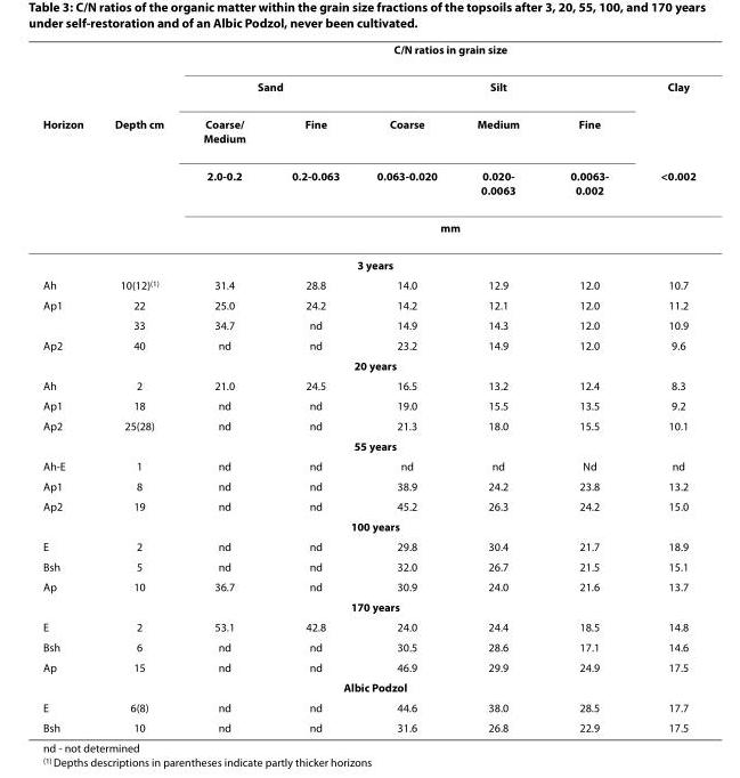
<table><thead><tr><td rowspan="5">Horizon</td><td rowspan="5">Depth cm</td><td colspan="6">C/N ratios in grain size</td></tr><tr><td colspan="2">Sand</td><td colspan="3">Silt</td><td rowspan="3">Clay &lt;0.002</td></tr><tr><td rowspan="2">Coarse/ Medium 2.0-0.2</td><td rowspan="2">Fine 0.2-0.063</td><td rowspan="2">Coarse 0.063-0.020</td><td rowspan="2">Medium 0.020- 0.0063</td><td rowspan="2">Fine 0.0063- 0.002</td></tr><tr></tr><tr><td colspan="6">mm</td></tr></thead><tbody><tr><td colspan="8">3 years</td></tr><tr><td>Ah</td><td>10(12)<sup>(1)</sup></td><td>31.4</td><td>28.8</td><td>14.0</td><td>12.9</td><td>12.0</td><td>10.7</td></tr><tr><td rowspan="2">Ap1</td><td>22</td><td>25.0</td><td>24.2</td><td>14.2</td><td>12.1</td><td>12.0</td><td>11.2</td></tr><tr><td>33</td><td>34.7</td><td>nd</td><td>14.9</td><td>14.3</td><td>12.0</td><td>10.9</td></tr><tr><td>Ap2</td><td>40</td><td>nd</td><td>nd</td><td>23.2</td><td>14.9</td><td>12.0</td><td>9.6</td></tr><tr><td colspan="8">20 years</td></tr><tr><td>Ah</td><td>2</td><td>21.0</td><td>24.5</td><td>16.5</td><td>13.2</td><td>12.4</td><td>8.3</td></tr><tr><td>Ap1</td><td>18</td><td>nd</td><td>nd</td><td>19.0</td><td>15.5</td><td>13.5</td><td>9.2</td></tr><tr><td>Ap2</td><td>25(28)</td><td>nd</td><td>nd</td><td>21.3</td><td>18.0</td><td>15.5</td><td>10.1</td></tr><tr><td colspan="8">55 years</td></tr><tr><td>Ah-E</td><td>1</td><td>nd</td><td>nd</td><td>nd</td><td>nd</td><td>Nd</td><td>nd</td></tr><tr><td>Ap1</td><td>8</td><td>nd</td><td>nd</td><td>38.9</td><td>24.2</td><td>23.8</td><td>13.2</td></tr><tr><td>Ap2</td><td>19</td><td>nd</td><td>nd</td><td>45.2</td><td>26.3</td><td>24.2</td><td>15.0</td></tr><tr><td colspan="8">100 years</td></tr><tr><td>E</td><td>2</td><td>nd</td><td>nd</td><td>29.8</td><td>30.4</td><td>21.7</td><td>18.9</td></tr><tr><td>Bsh</td><td>5</td><td>nd</td><td>nd</td><td>32.0</td><td>26.7</td><td>21.5</td><td>15.1</td></tr><tr><td>Ap</td><td>10</td><td>36.7</td><td>nd</td><td>30.9</td><td>24.0</td><td>21.6</td><td>13.7</td></tr><tr><td colspan="8">170 years</td></tr><tr><td>E</td><td>2</td><td>53.1</td><td>42.8</td><td>24.0</td><td>24.4</td><td>18.5</td><td>14.8</td></tr><tr><td>Bsh</td><td>6</td><td>nd</td><td>nd</td><td>30.5</td><td>28.6</td><td>17.1</td><td>14.6</td></tr><tr><td>Ap</td><td>15</td><td>nd</td><td>nd</td><td>46.9</td><td>29.9</td><td>24.9</td><td>17.5</td></tr><tr><td colspan="8">Albic Podzol</td></tr><tr><td>E</td><td>6(8)</td><td>nd</td><td>nd</td><td>44.6</td><td>38.0</td><td>28.5</td><td>17.7</td></tr><tr><td>Bsh</td><td>10</td><td>nd</td><td>nd</td><td>31.6</td><td>26.8</td><td>22.9</td><td>17.5</td></tr></tbody></table>